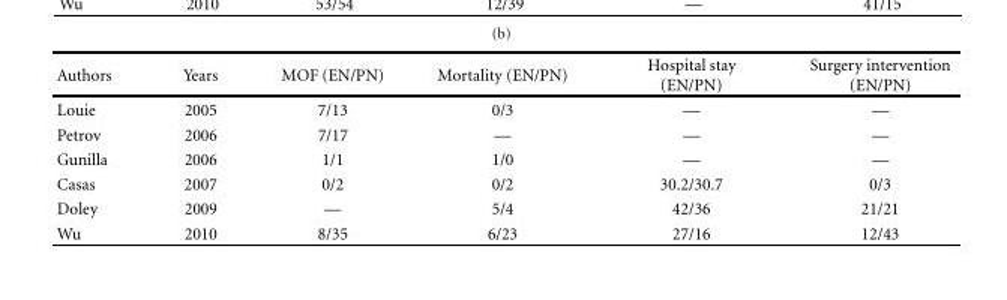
<table><thead><tr><td>Authors</td><td>Years</td><td>MOF (EN/PN)</td><td>Mortality (EN/PN)</td><td>Hospital stay (EN/PN)</td><td>Surgery intervention (EN/PN)</td></tr></thead><tbody><tr><td>Louie</td><td>2005</td><td>7/13</td><td>0/3</td><td>—</td><td>—</td></tr><tr><td>Petrov</td><td>2006</td><td>7/17</td><td>—</td><td>—</td><td>—</td></tr><tr><td>Gunilla</td><td>2006</td><td>1/1</td><td>1/0</td><td>—</td><td>—</td></tr><tr><td>Casas</td><td>2007</td><td>0/2</td><td>0/2</td><td>30.2/30.7</td><td>0/3</td></tr><tr><td>Doley</td><td>2009</td><td>—</td><td>5/4</td><td>42/36</td><td>21/21</td></tr><tr><td>Wu</td><td>2010</td><td>8/35</td><td>6/23</td><td>27/16</td><td>12/43</td></tr></tbody></table>